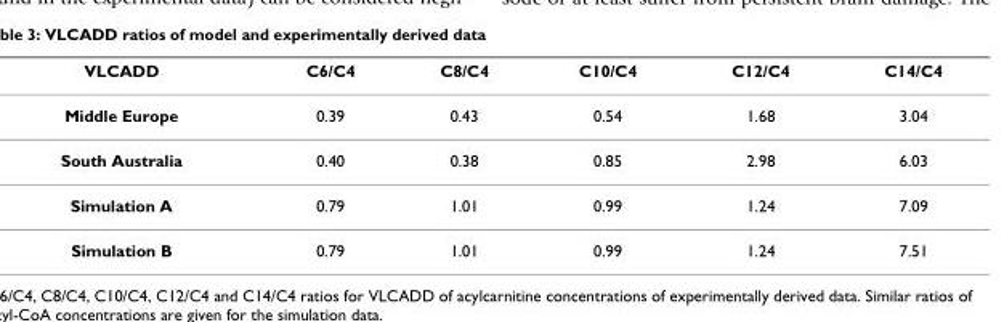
<table><thead><tr><td>VLCADD</td><td>C6/C4</td><td>C8/C4</td><td>C10/C4</td><td>C12/C4</td><td>C14/C4</td></tr></thead><tbody><tr><td>Middle Europe</td><td>0.39</td><td>0.43</td><td>0.54</td><td>1.68</td><td>3.04</td></tr><tr><td>South Australia</td><td>0.40</td><td>0.38</td><td>0.85</td><td>2.98</td><td>6.03</td></tr><tr><td>Simulation A</td><td>0.79</td><td>1.01</td><td>0.99</td><td>1.24</td><td>7.09</td></tr><tr><td>Simulation B</td><td>0.79</td><td>1.01</td><td>0.99</td><td>1.24</td><td>7.51</td></tr></tbody></table>